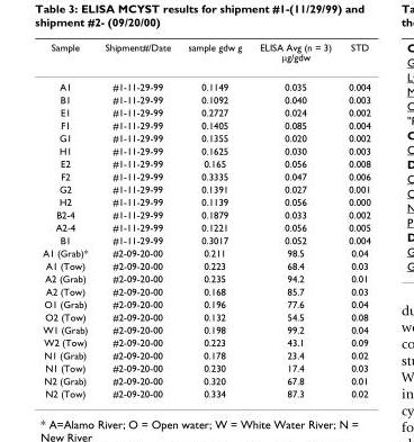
<table><thead><tr><td>Sample</td><td>Shipment#/Date</td><td>sample gdw g</td><td>ELISA Avg (n = 3) µg/gdw</td><td>STD</td></tr></thead><tbody><tr><td>A1</td><td>#1-11-29-99</td><td>0.1149</td><td>0.035</td><td>0.004</td></tr><tr><td>B1</td><td>#1-11-29-99</td><td>0.1092</td><td>0.040</td><td>0.003</td></tr><tr><td>E1</td><td>#1-11-29-99</td><td>0.2727</td><td>0.024</td><td>0.002</td></tr><tr><td>F1</td><td>#1-11-29-99</td><td>0.1405</td><td>0.085</td><td>0.004</td></tr><tr><td>G1</td><td>#1-11-29-99</td><td>0.1355</td><td>0.020</td><td>0.002</td></tr><tr><td>H1</td><td>#1-11-29-99</td><td>0.1625</td><td>0.030</td><td>0.003</td></tr><tr><td>E2</td><td>#1-11-29-99</td><td>0.165</td><td>0.056</td><td>0.008</td></tr><tr><td>F2</td><td>#1-11-29-99</td><td>0.3335</td><td>0.047</td><td>0.006</td></tr><tr><td>G2</td><td>#1-11-29-99</td><td>0.1391</td><td>0.027</td><td>0.001</td></tr><tr><td>H2</td><td>#1-11-29-99</td><td>0.1139</td><td>0.056</td><td>0.000</td></tr><tr><td>B2-4</td><td>#1-11-29-99</td><td>0.1879</td><td>0.033</td><td>0.002</td></tr><tr><td>A2-4</td><td>#1-11-29-99</td><td>0.1221</td><td>0.056</td><td>0.005</td></tr><tr><td>B1</td><td>#1-11-29-99</td><td>0.3017</td><td>0.052</td><td>0.004</td></tr><tr><td>A1 (Grab)*</td><td>#2-09-20-00</td><td>0.211</td><td>98.5</td><td>0.04</td></tr><tr><td>A1 (Tow)</td><td>#2-09-20-00</td><td>0.223</td><td>68.4</td><td>0.03</td></tr><tr><td>A2 (Grab)</td><td>#2-09-20-00</td><td>0.235</td><td>94.2</td><td>0.01</td></tr><tr><td>A2 (Tow)</td><td>#2-09-20-00</td><td>0.168</td><td>85.7</td><td>0.03</td></tr><tr><td>O1 (Grab)</td><td>#2-09-20-00</td><td>0.196</td><td>77.6</td><td>0.04</td></tr><tr><td>O2 (Tow)</td><td>#2-09-20-00</td><td>0.132</td><td>54.5</td><td>0.08</td></tr><tr><td>W1 (Grab)</td><td>#2-09-20-00</td><td>0.198</td><td>99.2</td><td>0.04</td></tr><tr><td>W2 (Tow)</td><td>#2-09-20-00</td><td>0.223</td><td>43.1</td><td>0.09</td></tr><tr><td>N1 (Grab)</td><td>#2-09-20-00</td><td>0.178</td><td>23.4</td><td>0.02</td></tr><tr><td>N1 (Tow)</td><td>#2-09-20-00</td><td>0.230</td><td>17.4</td><td>0.03</td></tr><tr><td>N2 (Grab)</td><td>#2-09-20-00</td><td>0.320</td><td>67.8</td><td>0.01</td></tr><tr><td>N2 (Tow)</td><td>#2-09-20-00</td><td>0.334</td><td>87.3</td><td>0.02</td></tr></tbody></table>